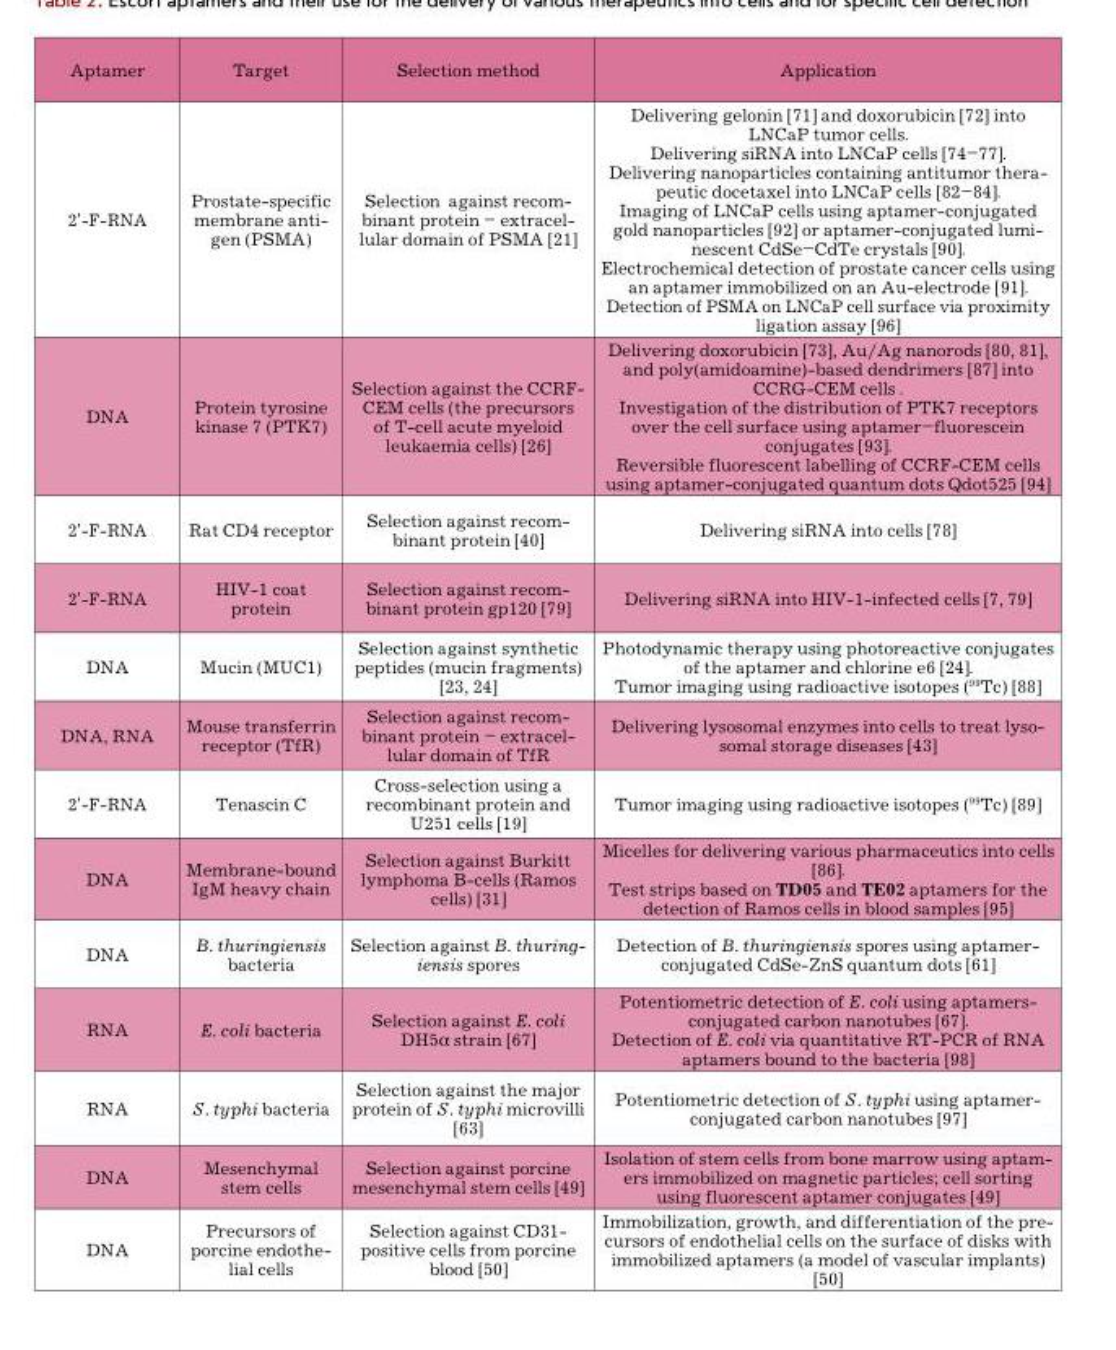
<table><thead><tr><td>Aptamer</td><td>target</td><td>Selection method</td><td>Application</td></tr></thead><tbody><tr><td>2&#x27;-F-rnA</td><td>Prostate-specific membrane anti- gen (PSMA)</td><td>Selection against recom- binant protein – extracel- lular domain of PSMA [21]</td><td>Delivering gelonin [71] and doxorubicin [72] into LncaP tumor cells. Delivering sirnA into LncaP cells [74–77]. Delivering nanoparticles containing antitumor thera- peutic docetaxel into LncaP cells [82–84]. Imaging of LncaP cells using aptamer-conjugated gold nanoparticles [92] or aptamer-conjugated lumi- nescent cdSe–cdte crystals [90]. electrochemical detection of prostate cancer cells using an aptamer immobilized on an Au-electrode [91]. Detection of PSMA on LncaP cell surface via proximity ligation assay [96]</td></tr><tr><td>DnA</td><td>Protein tyrosine kinase 7 (PtK7)</td><td>Selection against the ccrF- ceM cells (the precursors of t-cell acute myeloid leukaemia cells) [26]</td><td>Delivering doxorubicin [73], Au/Ag nanorods [80, 81], and poly(amidoamine)-based dendrimers [87] into ccrG-ceM cells . Investigation of the distribution of PtK7 receptors over the cell surface using aptamer–fluorescein conjugates [93]. reversible fluorescent labelling of ccrF-ceM cells using aptamer-conjugated quantum dots Qdot525 [94]</td></tr><tr><td>2&#x27;-F-rnA</td><td>rat cD4 receptor</td><td>Selection against recom- binant protein [40]</td><td>Delivering sirnA into cells [78]</td></tr><tr><td>2&#x27;-F-rnA</td><td>HIV-1 coat protein</td><td>Selection against recom- binant protein gp120 [79]</td><td>Delivering sirnA into HIV-1-infected cells [7, 79]</td></tr><tr><td>DnA</td><td>Mucin (Muc1)</td><td>Selection against synthetic peptides (mucin fragments) [23, 24]</td><td>Photodynamic therapy using photoreactive conjugates of the aptamer and chlorine e6 [24]. tumor imaging using radioactive isotopes (<sup>99</sup>tc) [88]</td></tr><tr><td>DnA, rnA</td><td>Mouse transferrin receptor (tfr)</td><td>Selection against recom- binant protein – extracel- lular domain of tfr</td><td>Delivering lysosomal enzymes into cells to treat lyso- somal storage diseases [43]</td></tr><tr><td>2&#x27;-F-rnA</td><td>tenascin c</td><td>cross-selection using a recombinant protein and u251 cells [19]</td><td>tumor imaging using radioactive isotopes (<sup>99</sup>tc) [89]</td></tr><tr><td>DnA</td><td>Membrane-bound IgM heavy chain</td><td>Selection against Burkitt lymphoma B-cells (ramos cells) [31]</td><td>Micelles for delivering various pharmaceutics into cells [86]. test strips based on TD05 and TE02 aptamers for the detection of ramos cells in blood samples [95]</td></tr><tr><td>DnA</td><td>B. thuringiensis bacteria</td><td>Selection against B. thuring- iensis spores</td><td>Detection of B. thuringiensis spores using aptamer- conjugated cdSe-ZnS quantum dots [61]</td></tr><tr><td>rnA</td><td>E. coli bacteria</td><td>Selection against E. coli DH5α strain [67]</td><td>Potentiometric detection of E. coli using aptamers- conjugated carbon nanotubes [67]. Detection of E. coli via quantitative rt-Pcr of rnA aptamers bound to the bacteria [98]</td></tr><tr><td>rnA</td><td>S. typhi bacteria</td><td>Selection against the major protein of S. typhi microvilli [63]</td><td>Potentiometric detection of S. typhi using aptamer- conjugated carbon nanotubes [97]</td></tr><tr><td>DnA</td><td>Mesenchymal stem cells</td><td>Selection against porcine mesenchymal stem cells [49]</td><td>Isolation of stem cells from bone marrow using aptam- ers immobilized on magnetic particles; cell sorting using fluorescent aptamer conjugates [49]</td></tr><tr><td>DnA</td><td>Precursors of porcine endothe- lial cells</td><td>Selection against cD31- positive cells from porcine blood [50]</td><td>Immobilization, growth, and differentiation of the pre- cursors of endothelial cells on the surface of disks with immobilized aptamers (a model of vascular implants) [50]</td></tr></tbody></table>